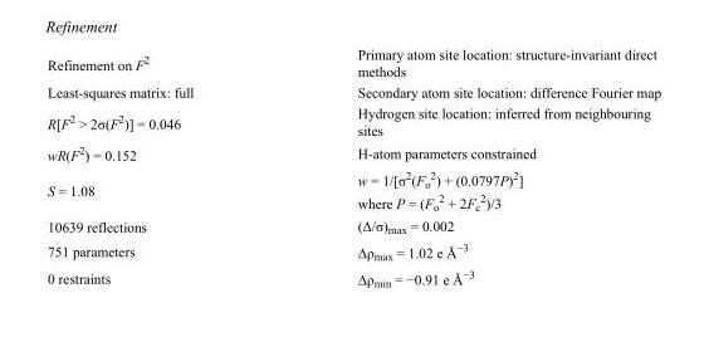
<table><tbody><tr><td>Refinement on F<sup>2</sup></td><td>Primary atom site location: structure-invariant direct methods</td></tr><tr><td>Least-squares matrix: full</td><td>Secondary atom site location: difference Fourier map</td></tr><tr><td>R[F<sup>2</sup> &gt; 2σ(F<sup>2</sup>)] = 0.046</td><td>Hydrogen site location: inferred from neighbouring sites</td></tr><tr><td>wR(F<sup>2</sup>) = 0.152</td><td>H-atom parameters constrained</td></tr><tr><td>S = 1.08</td><td>w = 1/[σ<sup>2</sup>(F<sub>o</sub> <sup>2</sup>) + (0.0797P)<sup>2</sup>] where P = (F<sub>o</sub> <sup>2</sup> + 2F<sub>c</sub> <sup>2</sup>)/3</td></tr><tr><td>10639 reflections</td><td>(Δ/σ)<sub>max</sub> = 0.002</td></tr><tr><td>751 parameters</td><td>Δρ<sub>max</sub> = 1.02 e Å<sup>−3</sup></td></tr><tr><td>0 restraints</td><td>Δρ<sub>min</sub> = −0.91 e Å<sup>−3</sup></td></tr></tbody></table>